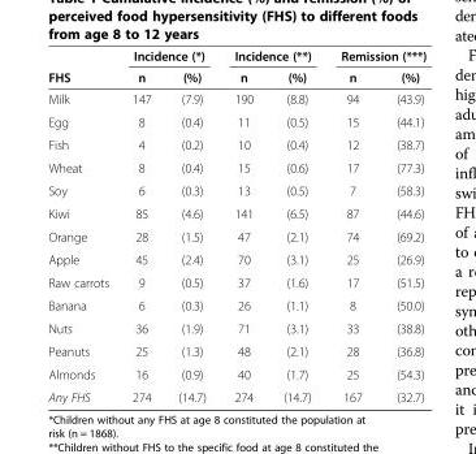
<table><thead><tr><td rowspan="2">FHS</td><td colspan="2">Incidence (*)</td><td colspan="2">Incidence (**)</td><td colspan="2">Remission (***)</td></tr><tr><td>n</td><td>(%)</td><td>n</td><td>(%)</td><td>n</td><td>(%)</td></tr></thead><tbody><tr><td>Milk</td><td>147</td><td>(7.9)</td><td>190</td><td>(8.8)</td><td>94</td><td>(43.9)</td></tr><tr><td>Egg</td><td>8</td><td>(0.4)</td><td>11</td><td>(0.5)</td><td>15</td><td>(44.1)</td></tr><tr><td>Fish</td><td>4</td><td>(0.2)</td><td>10</td><td>(0.4)</td><td>12</td><td>(38.7)</td></tr><tr><td>Wheat</td><td>8</td><td>(0.4)</td><td>15</td><td>(0.6)</td><td>17</td><td>(77.3)</td></tr><tr><td>Soy</td><td>6</td><td>(0.3)</td><td>13</td><td>(0.5)</td><td>7</td><td>(58.3)</td></tr><tr><td>Kiwi</td><td>85</td><td>(4.6)</td><td>141</td><td>(6.5)</td><td>87</td><td>(44.6)</td></tr><tr><td>Orange</td><td>28</td><td>(1.5)</td><td>47</td><td>(2.1)</td><td>74</td><td>(69.2)</td></tr><tr><td>Apple</td><td>45</td><td>(2.4)</td><td>70</td><td>(3.1)</td><td>25</td><td>(26.9)</td></tr><tr><td>Raw carrots</td><td>9</td><td>(0.5)</td><td>37</td><td>(1.6)</td><td>17</td><td>(51.5)</td></tr><tr><td>Banana</td><td>6</td><td>(0.3)</td><td>26</td><td>(1.1)</td><td>8</td><td>(50.0)</td></tr><tr><td>Nuts</td><td>36</td><td>(1.9)</td><td>71</td><td>(3.1)</td><td>33</td><td>(38.8)</td></tr><tr><td>Peanuts</td><td>25</td><td>(1.3)</td><td>48</td><td>(2.1)</td><td>28</td><td>(36.8)</td></tr><tr><td>Almonds</td><td>16</td><td>(0.9)</td><td>40</td><td>(1.7)</td><td>25</td><td>(54.3)</td></tr><tr><td>Any FHS</td><td>274</td><td>(14.7)</td><td>274</td><td>(14.7)</td><td>167</td><td>(32.7)</td></tr></tbody></table>